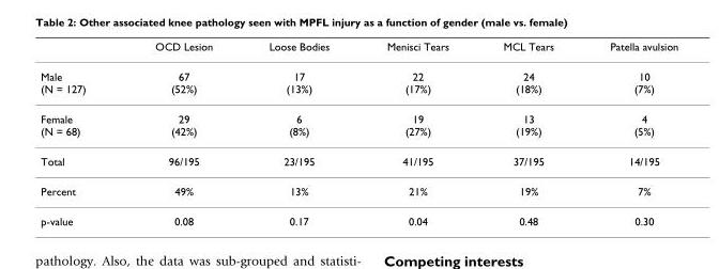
<table><thead><tr><td></td><td>OCD Lesion</td><td>Loose Bodies</td><td>Menisci Tears</td><td>MCL Tears</td><td>Patella avulsion</td></tr></thead><tbody><tr><td>Male (N = 127)</td><td>67 (52%)</td><td>17 (13%)</td><td>22 (17%)</td><td>24 (18%)</td><td>10 (7%)</td></tr><tr><td>Female (N = 68)</td><td>29 (42%)</td><td>6 (8%)</td><td>19 (27%)</td><td>13 (19%)</td><td>4 (5%)</td></tr><tr><td>Total</td><td>96/195</td><td>23/195</td><td>41/195</td><td>37/195</td><td>14/195</td></tr><tr><td>Percent</td><td>49%</td><td>13%</td><td>21%</td><td>19%</td><td>7%</td></tr><tr><td>p-value</td><td>0.08</td><td>0.17</td><td>0.04</td><td>0.48</td><td>0.30</td></tr></tbody></table>